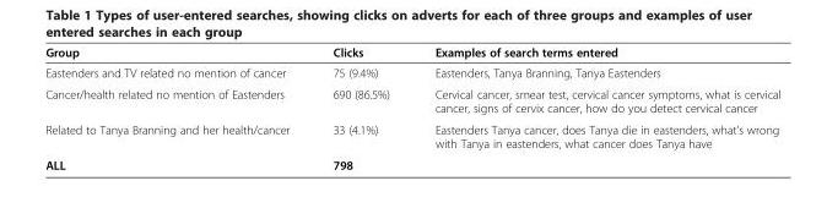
<table><thead><tr><td>Group</td><td>Clicks</td><td>Examples of search terms entered</td></tr></thead><tbody><tr><td>Eastenders and TV related no mention of cancer</td><td>75 (9.4%)</td><td>Eastenders, Tanya Branning, Tanya Eastenders</td></tr><tr><td>Cancer/health related no mention of Eastenders</td><td>690 (86.5%)</td><td>Cervical cancer, smear test, cervical cancer symptoms, what is cervical cancer, signs of cervix cancer, how do you detect cervical cancer</td></tr><tr><td>Related to Tanya Branning and her health/cancer</td><td>33 (4.1%)</td><td>Eastenders Tanya cancer, does Tanya die in eastenders, what’s wrong with Tanya in eastenders, what cancer does Tanya have</td></tr><tr><td>ALL</td><td>798</td><td></td></tr></tbody></table>